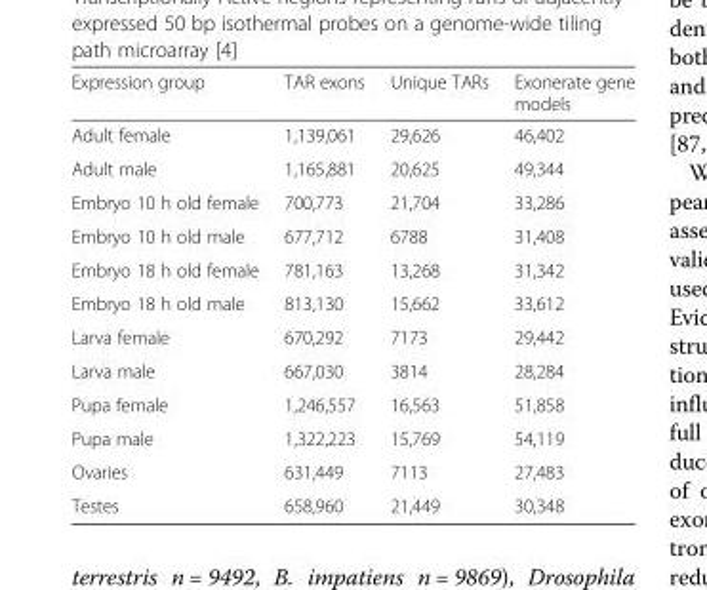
<table><thead><tr><td>Expression group</td><td>TAR exons</td><td>Unique TARs</td><td>Exonerate gene models</td></tr></thead><tbody><tr><td>Adult female</td><td>1,139,061</td><td>29,626</td><td>46,402</td></tr><tr><td>Adult male</td><td>1,165,881</td><td>20,625</td><td>49,344</td></tr><tr><td>Embryo 10 h old female</td><td>700,773</td><td>21,704</td><td>33,286</td></tr><tr><td>Embryo 10 h old male</td><td>677,712</td><td>6788</td><td>31,408</td></tr><tr><td>Embryo 18 h old female</td><td>781,163</td><td>13,268</td><td>31,342</td></tr><tr><td>Embryo 18 h old male</td><td>813,130</td><td>15,662</td><td>33,612</td></tr><tr><td>Larva female</td><td>670,292</td><td>7173</td><td>29,442</td></tr><tr><td>Larva male</td><td>667,030</td><td>3814</td><td>28,284</td></tr><tr><td>Pupa female</td><td>1,246,557</td><td>16,563</td><td>51,858</td></tr><tr><td>Pupa male</td><td>1,322,223</td><td>15,769</td><td>54,119</td></tr><tr><td>Ovaries</td><td>631,449</td><td>7113</td><td>27,483</td></tr><tr><td>Testes</td><td>658,960</td><td>21,449</td><td>30,348</td></tr></tbody></table>